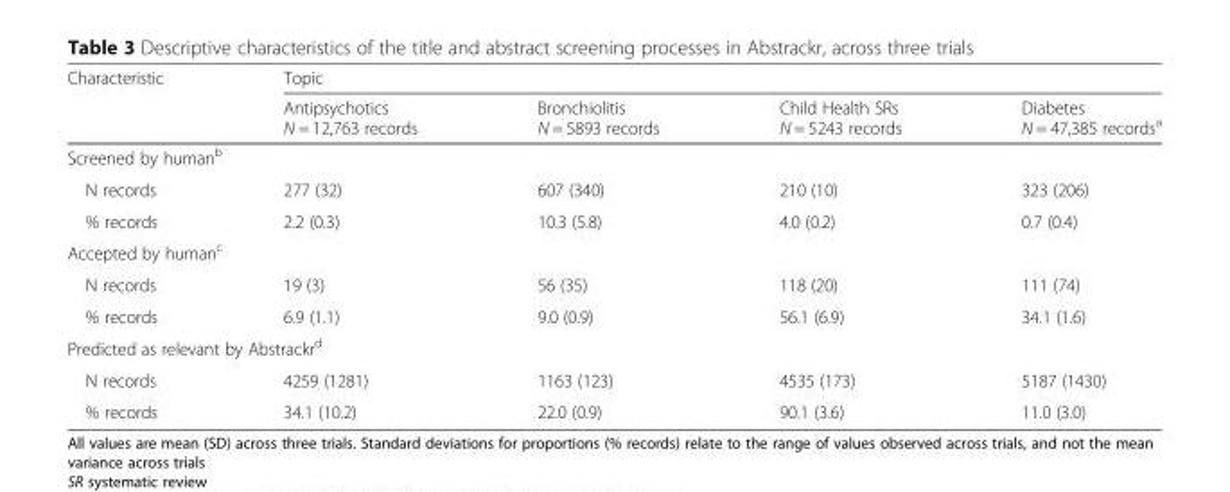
<table><thead><tr><td rowspan="2">Characteristic</td><td colspan="4">Topic</td></tr><tr><td>Antipsychotics N = 12,763 records</td><td>Bronchiolitis N = 5893 records</td><td>Child Health SRs N = 5243 records</td><td>Diabetes N = 47,385 records<sup>a</sup></td></tr></thead><tbody><tr><td colspan="5">Screened by human<sup>b</sup></td></tr><tr><td>N records</td><td>277 (32)</td><td>607 (340)</td><td>210 (10)</td><td>323 (206)</td></tr><tr><td>% records</td><td>2.2 (0.3)</td><td>10.3 (5.8)</td><td>4.0 (0.2)</td><td>0.7 (0.4)</td></tr><tr><td colspan="5">Accepted by human<sup>c</sup></td></tr><tr><td>N records</td><td>19 (3)</td><td>56 (35)</td><td>118 (20)</td><td>111 (74)</td></tr><tr><td>% records</td><td>6.9 (1.1)</td><td>9.0 (0.9)</td><td>56.1 (6.9)</td><td>34.1 (1.6)</td></tr><tr><td colspan="5">Predicted as relevant by Abstrackr<sup>d</sup></td></tr><tr><td>N records</td><td>4259 (1281)</td><td>1163 (123)</td><td>4535 (173)</td><td>5187 (1430)</td></tr><tr><td>% records</td><td>34.1 (10.2)</td><td>22.0 (0.9)</td><td>90.1 (3.6)</td><td>11.0 (3.0)</td></tr></tbody></table>